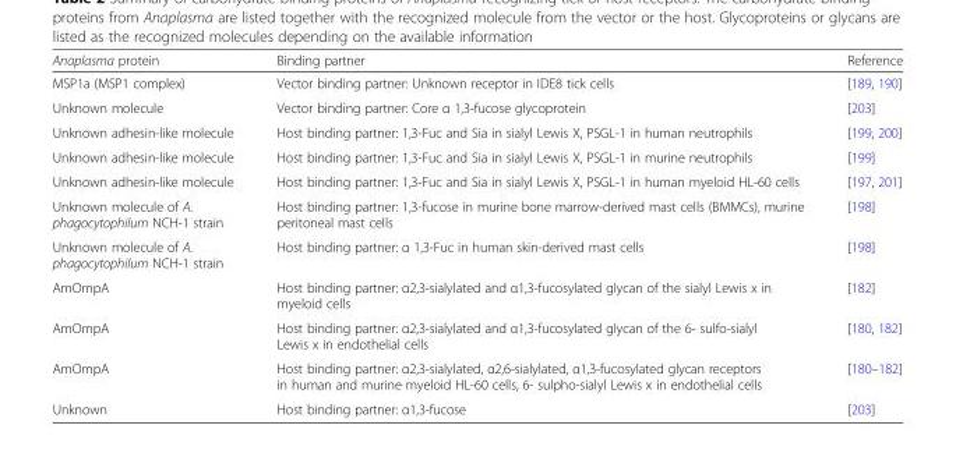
<table><thead><tr><td>Anaplasma protein</td><td>Binding partner</td><td>Reference</td></tr></thead><tbody><tr><td>MSP1a (MSP1 complex)</td><td>Vector binding partner: Unknown receptor in IDE8 tick cells</td><td>[189, 190]</td></tr><tr><td>Unknown molecule</td><td>Vector binding partner: Core α 1,3-fucose glycoprotein</td><td>[203]</td></tr><tr><td>Unknown adhesin-like molecule</td><td>Host binding partner: 1,3-Fuc and Sia in sialyl Lewis X, PSGL-1 in human neutrophils</td><td>[199, 200]</td></tr><tr><td>Unknown adhesin-like molecule</td><td>Host binding partner: 1,3-Fuc and Sia in sialyl Lewis X, PSGL-1 in murine neutrophils</td><td>[199]</td></tr><tr><td>Unknown adhesin-like molecule</td><td>Host binding partner: 1,3-Fuc and Sia in sialyl Lewis X, PSGL-1 in human myeloid HL-60 cells</td><td>[197, 201]</td></tr><tr><td>Unknown molecule of A. phagocytophilum NCH-1 strain</td><td>Host binding partner: 1,3-fucose in murine bone marrow-derived mast cells (BMMCs), murine peritoneal mast cells</td><td>[198]</td></tr><tr><td>Unknown molecule of A. phagocytophilum NCH-1 strain</td><td>Host binding partner: α 1,3-Fuc in human skin-derived mast cells</td><td>[198]</td></tr><tr><td>AmOmpA</td><td>Host binding partner: α2,3-sialylated and α1,3-fucosylated glycan of the sialyl Lewis x in myeloid cells</td><td>[182]</td></tr><tr><td>AmOmpA</td><td>Host binding partner: α2,3-sialylated and α1,3-fucosylated glycan of the 6- sulfo-sialyl Lewis x in endothelial cells</td><td>[180, 182]</td></tr><tr><td>AmOmpA</td><td>Host binding partner: α2,3-sialylated, α2,6-sialylated, α1,3-fucosylated glycan receptors in human and murine myeloid HL-60 cells, 6- sulpho-sialyl Lewis x in endothelial cells</td><td>[180–182]</td></tr><tr><td>Unknown</td><td>Host binding partner: α1,3-fucose</td><td>[203]</td></tr></tbody></table>